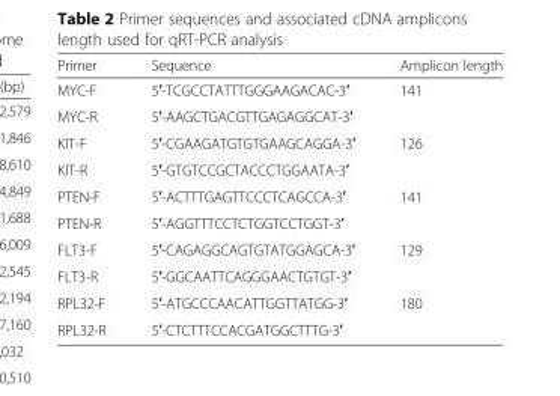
<table><thead><tr><td>Primer</td><td>Sequence</td><td>Amplicon length</td></tr></thead><tbody><tr><td>MYC-F</td><td>5′-TCGCCTATTTGGGAAGACAC-3′</td><td rowspan="2">141</td></tr><tr><td>MYC-R</td><td>5′-AAGCTGACGTTGAGAGGCAT-3′</td></tr><tr><td>KIT-F</td><td>5′-CGAAGATGTGTGAAGCAGGA-3′</td><td rowspan="2">126</td></tr><tr><td>KIT-R</td><td>5′-GTGTCCGCTACCCTGGAATA-3′</td></tr><tr><td>PTEN-F</td><td>5′-ACTTTGAGTTCCCTCAGCCA-3′</td><td rowspan="2">141</td></tr><tr><td>PTEN-R</td><td>5′-AGGTTTCCTCTGGTCCTGGT-3′</td></tr><tr><td>FLT3-F</td><td>5′-CAGAGGCAGTGTATGGAGCA-3′</td><td rowspan="2">129</td></tr><tr><td>FLT3-R</td><td>5′-GGCAATTCAGGGAACTGTGT-3′</td></tr><tr><td>RPL32-F</td><td>5′-ATGCCCAACATTGGTTATGG-3′</td><td rowspan="2">180</td></tr><tr><td>RPL32-R</td><td>5′-CTCTTTCCACGATGGCTTTG-3′</td></tr></tbody></table>